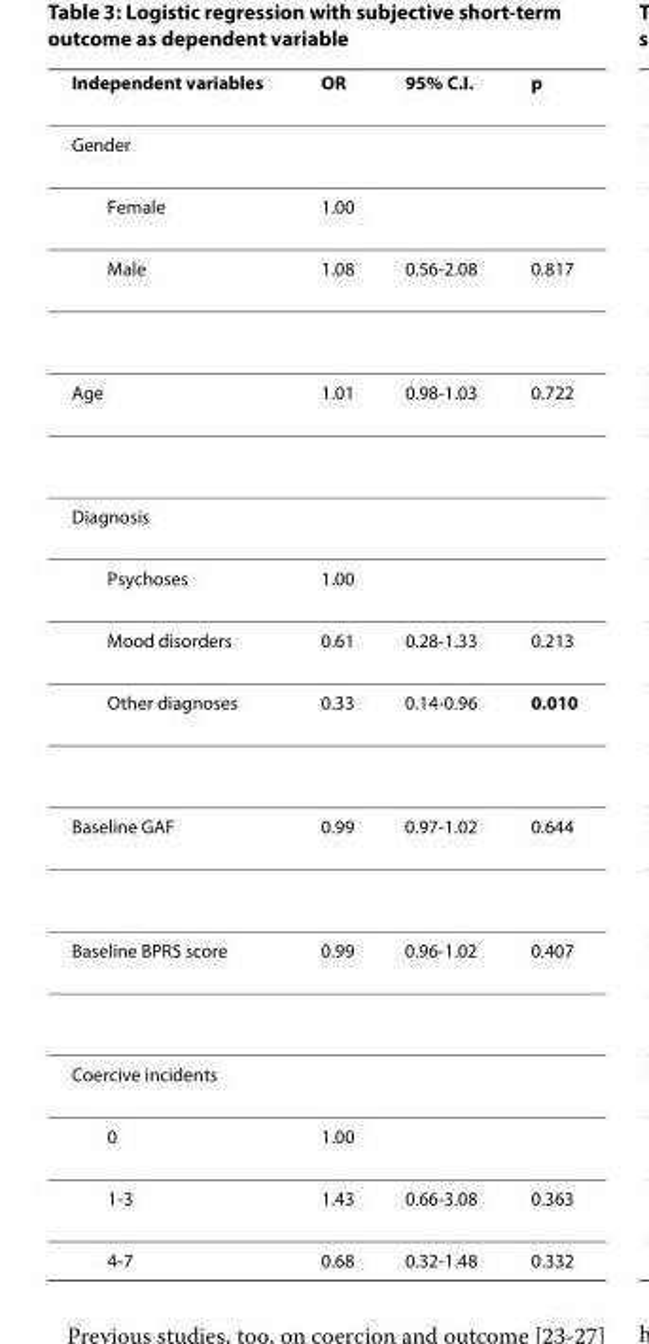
<table><thead><tr><td>Independent variables</td><td>OR</td><td>95% C.I.</td><td>p</td></tr></thead><tbody><tr><td colspan="4">Gender</td></tr><tr><td>Female</td><td>1.00</td><td></td><td></td></tr><tr><td>Male</td><td>1.08</td><td>0.56-2.08</td><td>0.817</td></tr><tr><td>Age</td><td>1.01</td><td>0.98-1.03</td><td>0.722</td></tr><tr><td colspan="4">Diagnosis</td></tr><tr><td>Psychoses</td><td>1.00</td><td></td><td></td></tr><tr><td>Mood disorders</td><td>0.61</td><td>0.28-1.33</td><td>0.213</td></tr><tr><td>Other diagnoses</td><td>0.33</td><td>0.14-0.96</td><td>0.010</td></tr><tr><td>Baseline GAF</td><td>0.99</td><td>0.97-1.02</td><td>0.644</td></tr><tr><td>Baseline BPRS score</td><td>0.99</td><td>0.96-1.02</td><td>0.407</td></tr><tr><td colspan="4">Coercive incidents</td></tr><tr><td>0</td><td>1.00</td><td></td><td></td></tr><tr><td>1-3</td><td>1.43</td><td>0.66-3.08</td><td>0.363</td></tr><tr><td>4-7</td><td>0.68</td><td>0.32-1.48</td><td>0.332</td></tr></tbody></table>